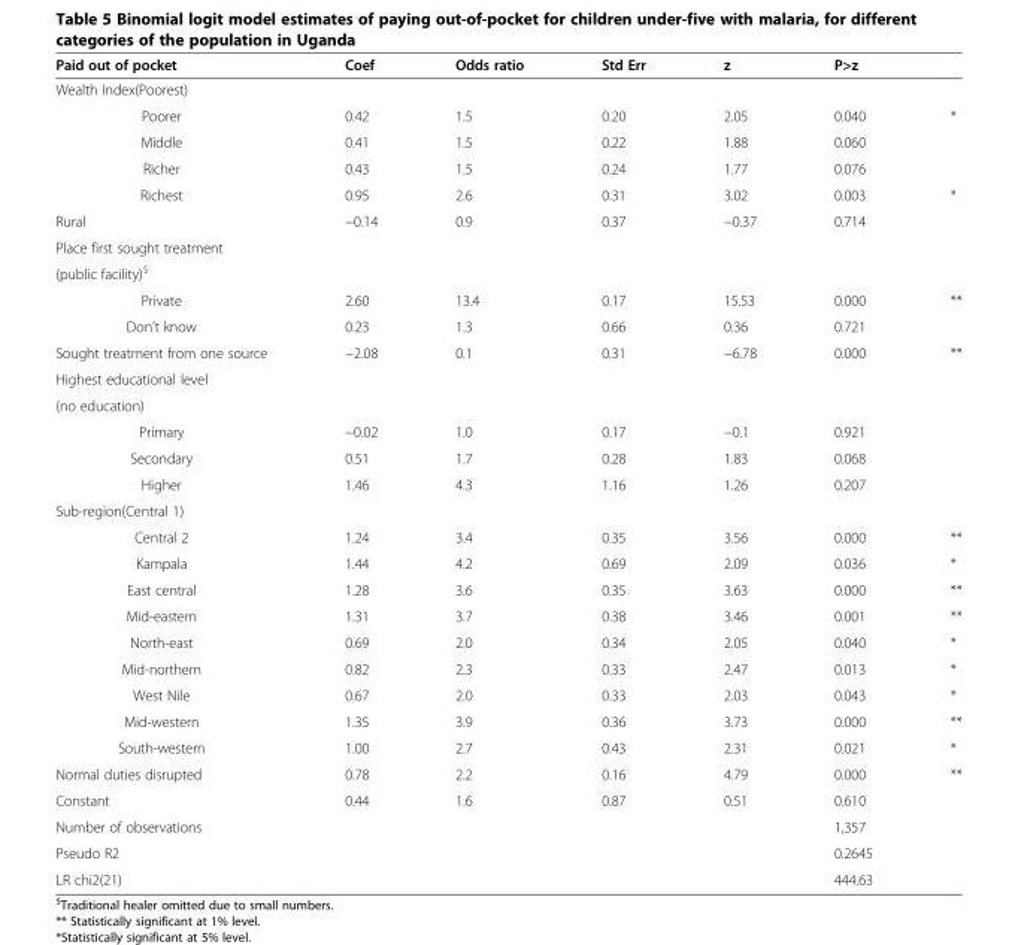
<table><thead><tr><td>Paid out of pocket</td><td>Coef</td><td>Odds ratio</td><td>Std Err</td><td>z</td><td>P&gt;z</td><td></td></tr></thead><tbody><tr><td colspan="7">Wealth Index(Poorest)</td></tr><tr><td>Poorer</td><td>0.42</td><td>1.5</td><td>0.20</td><td>2.05</td><td>0.040</td><td>*</td></tr><tr><td>Middle</td><td>0.41</td><td>1.5</td><td>0.22</td><td>1.88</td><td>0.060</td><td></td></tr><tr><td>Richer</td><td>0.43</td><td>1.5</td><td>0.24</td><td>1.77</td><td>0.076</td><td></td></tr><tr><td>Richest</td><td>0.95</td><td>2.6</td><td>0.31</td><td>3.02</td><td>0.003</td><td>*</td></tr><tr><td>Rural</td><td>−0.14</td><td>0.9</td><td>0.37</td><td>−0.37</td><td>0.714</td><td></td></tr><tr><td colspan="7">Place first sought treatment</td></tr><tr><td colspan="7">(public facility)<sup>$</sup></td></tr><tr><td>Private</td><td>2.60</td><td>13.4</td><td>0.17</td><td>15.53</td><td>0.000</td><td>**</td></tr><tr><td>Don’t know</td><td>0.23</td><td>1.3</td><td>0.66</td><td>0.36</td><td>0.721</td><td></td></tr><tr><td>Sought treatment from one source</td><td>−2.08</td><td>0.1</td><td>0.31</td><td>−6.78</td><td>0.000</td><td>**</td></tr><tr><td colspan="7">Highest educational level</td></tr><tr><td colspan="7">(no education)</td></tr><tr><td>Primary</td><td>−0.02</td><td>1.0</td><td>0.17</td><td>−0.1</td><td>0.921</td><td></td></tr><tr><td>Secondary</td><td>0.51</td><td>1.7</td><td>0.28</td><td>1.83</td><td>0.068</td><td></td></tr><tr><td>Higher</td><td>1.46</td><td>4.3</td><td>1.16</td><td>1.26</td><td>0.207</td><td></td></tr><tr><td colspan="7">Sub-region(Central 1)</td></tr><tr><td>Central 2</td><td>1.24</td><td>3.4</td><td>0.35</td><td>3.56</td><td>0.000</td><td>**</td></tr><tr><td>Kampala</td><td>1.44</td><td>4.2</td><td>0.69</td><td>2.09</td><td>0.036</td><td>*</td></tr><tr><td>East central</td><td>1.28</td><td>3.6</td><td>0.35</td><td>3.63</td><td>0.000</td><td>**</td></tr><tr><td>Mid-eastern</td><td>1.31</td><td>3.7</td><td>0.38</td><td>3.46</td><td>0.001</td><td>**</td></tr><tr><td>North-east</td><td>0.69</td><td>2.0</td><td>0.34</td><td>2.05</td><td>0.040</td><td>*</td></tr><tr><td>Mid-northern</td><td>0.82</td><td>2.3</td><td>0.33</td><td>2.47</td><td>0.013</td><td>*</td></tr><tr><td>West Nile</td><td>0.67</td><td>2.0</td><td>0.33</td><td>2.03</td><td>0.043</td><td>*</td></tr><tr><td>Mid-western</td><td>1.35</td><td>3.9</td><td>0.36</td><td>3.73</td><td>0.000</td><td>**</td></tr><tr><td>South-western</td><td>1.00</td><td>2.7</td><td>0.43</td><td>2.31</td><td>0.021</td><td>*</td></tr><tr><td>Normal duties disrupted</td><td>0.78</td><td>2.2</td><td>0.16</td><td>4.79</td><td>0.000</td><td>**</td></tr><tr><td>Constant</td><td>0.44</td><td>1.6</td><td>0.87</td><td>0.51</td><td>0.610</td><td></td></tr><tr><td colspan="5">Number of observations</td><td>1,357</td><td></td></tr><tr><td colspan="5">Pseudo R2</td><td>0.2645</td><td></td></tr><tr><td colspan="5">LR chi2(21)</td><td>444.63</td><td></td></tr></tbody></table>